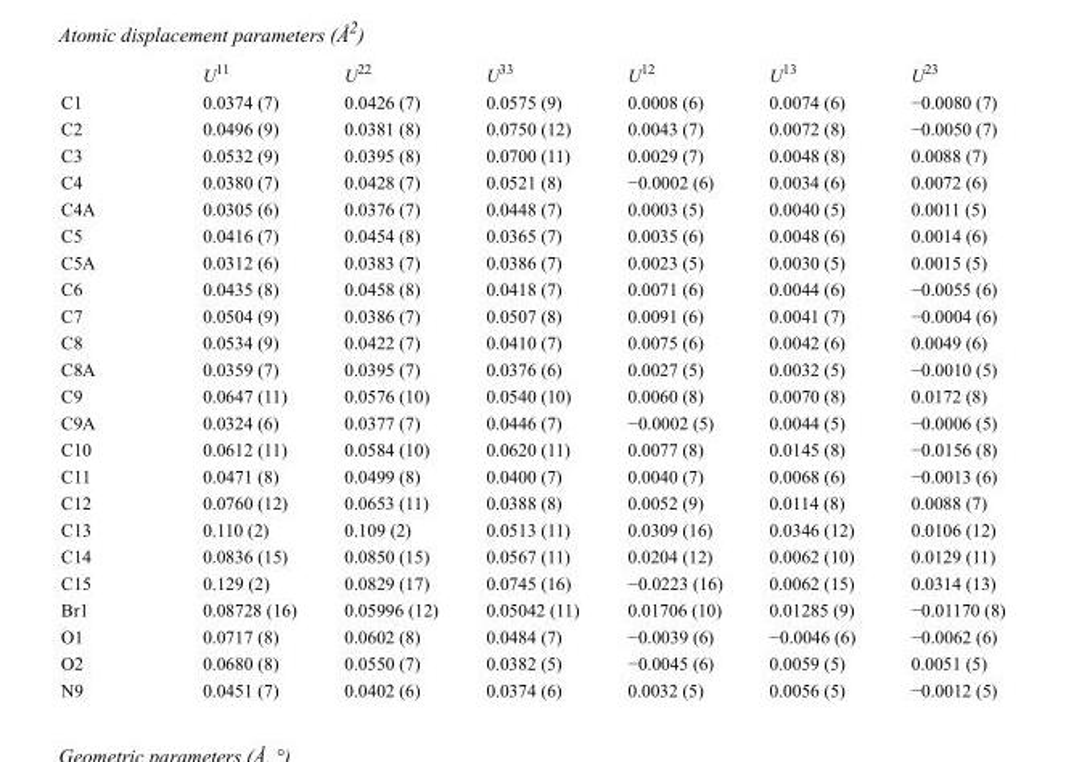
<table><thead><tr><td></td><td>U<sup>11</sup></td><td>U<sup>22</sup></td><td>U<sup>33</sup></td><td>U<sup>12</sup></td><td>U<sup>13</sup></td><td>U<sup>23</sup></td></tr></thead><tbody><tr><td>C1</td><td>0.0374 (7)</td><td>0.0426 (7)</td><td>0.0575 (9)</td><td>0.0008 (6)</td><td>0.0074 (6)</td><td>−0.0080 (7)</td></tr><tr><td>C2</td><td>0.0496 (9)</td><td>0.0381 (8)</td><td>0.0750 (12)</td><td>0.0043 (7)</td><td>0.0072 (8)</td><td>−0.0050 (7)</td></tr><tr><td>C3</td><td>0.0532 (9)</td><td>0.0395 (8)</td><td>0.0700 (11)</td><td>0.0029 (7)</td><td>0.0048 (8)</td><td>0.0088 (7)</td></tr><tr><td>C4</td><td>0.0380 (7)</td><td>0.0428 (7)</td><td>0.0521 (8)</td><td>−0.0002 (6)</td><td>0.0034 (6)</td><td>0.0072 (6)</td></tr><tr><td>C4A</td><td>0.0305 (6)</td><td>0.0376 (7)</td><td>0.0448 (7)</td><td>0.0003 (5)</td><td>0.0040 (5)</td><td>0.0011 (5)</td></tr><tr><td>C5</td><td>0.0416 (7)</td><td>0.0454 (8)</td><td>0.0365 (7)</td><td>0.0035 (6)</td><td>0.0048 (6)</td><td>0.0014 (6)</td></tr><tr><td>C5A</td><td>0.0312 (6)</td><td>0.0383 (7)</td><td>0.0386 (7)</td><td>0.0023 (5)</td><td>0.0030 (5)</td><td>0.0015 (5)</td></tr><tr><td>C6</td><td>0.0435 (8)</td><td>0.0458 (8)</td><td>0.0418 (7)</td><td>0.0071 (6)</td><td>0.0044 (6)</td><td>−0.0055 (6)</td></tr><tr><td>C7</td><td>0.0504 (9)</td><td>0.0386 (7)</td><td>0.0507 (8)</td><td>0.0091 (6)</td><td>0.0041 (7)</td><td>−0.0004 (6)</td></tr><tr><td>C8</td><td>0.0534 (9)</td><td>0.0422 (7)</td><td>0.0410 (7)</td><td>0.0075 (6)</td><td>0.0042 (6)</td><td>0.0049 (6)</td></tr><tr><td>C8A</td><td>0.0359 (7)</td><td>0.0395 (7)</td><td>0.0376 (6)</td><td>0.0027 (5)</td><td>0.0032 (5)</td><td>−0.0010 (5)</td></tr><tr><td>C9</td><td>0.0647 (11)</td><td>0.0576 (10)</td><td>0.0540 (10)</td><td>0.0060 (8)</td><td>0.0070 (8)</td><td>0.0172 (8)</td></tr><tr><td>C9A</td><td>0.0324 (6)</td><td>0.0377 (7)</td><td>0.0446 (7)</td><td>−0.0002 (5)</td><td>0.0044 (5)</td><td>−0.0006 (5)</td></tr><tr><td>C10</td><td>0.0612 (11)</td><td>0.0584 (10)</td><td>0.0620 (11)</td><td>0.0077 (8)</td><td>0.0145 (8)</td><td>−0.0156 (8)</td></tr><tr><td>C11</td><td>0.0471 (8)</td><td>0.0499 (8)</td><td>0.0400 (7)</td><td>0.0040 (7)</td><td>0.0068 (6)</td><td>−0.0013 (6)</td></tr><tr><td>C12</td><td>0.0760 (12)</td><td>0.0653 (11)</td><td>0.0388 (8)</td><td>0.0052 (9)</td><td>0.0114 (8)</td><td>0.0088 (7)</td></tr><tr><td>C13</td><td>0.110 (2)</td><td>0.109 (2)</td><td>0.0513 (11)</td><td>0.0309 (16)</td><td>0.0346 (12)</td><td>0.0106 (12)</td></tr><tr><td>C14</td><td>0.0836 (15)</td><td>0.0850 (15)</td><td>0.0567 (11)</td><td>0.0204 (12)</td><td>0.0062 (10)</td><td>0.0129 (11)</td></tr><tr><td>C15</td><td>0.129 (2)</td><td>0.0829 (17)</td><td>0.0745 (16)</td><td>−0.0223 (16)</td><td>0.0062 (15)</td><td>0.0314 (13)</td></tr><tr><td>Br1</td><td>0.08728 (16)</td><td>0.05996 (12)</td><td>0.05042 (11)</td><td>0.01706 (10)</td><td>0.01285 (9)</td><td>−0.01170 (8)</td></tr><tr><td>O1</td><td>0.0717 (8)</td><td>0.0602 (8)</td><td>0.0484 (7)</td><td>−0.0039 (6)</td><td>−0.0046 (6)</td><td>−0.0062 (6)</td></tr><tr><td>O2</td><td>0.0680 (8)</td><td>0.0550 (7)</td><td>0.0382 (5)</td><td>−0.0045 (6)</td><td>0.0059 (5)</td><td>0.0051 (5)</td></tr><tr><td>N9</td><td>0.0451 (7)</td><td>0.0402 (6)</td><td>0.0374 (6)</td><td>0.0032 (5)</td><td>0.0056 (5)</td><td>−0.0012 (5)</td></tr></tbody></table>